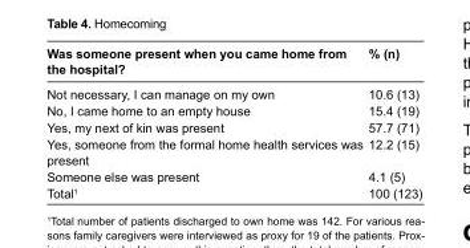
<table><thead><tr><td>Was someone present when you came home from the hospital?</td><td>% (n)</td></tr></thead><tbody><tr><td>Not necessary, I can manage on my own</td><td>10.6 (13)</td></tr><tr><td>No, I came home to an empty house</td><td>15.4 (19)</td></tr><tr><td>Yes, my next of kin was present</td><td>57.7 (71)</td></tr><tr><td>Yes, someone from the formal home health services was present</td><td>12.2 (15)</td></tr><tr><td>Someone else was present</td><td>4.1 (5)</td></tr><tr><td>Total<sup>1</sup></td><td>100 (123)</td></tr></tbody></table>